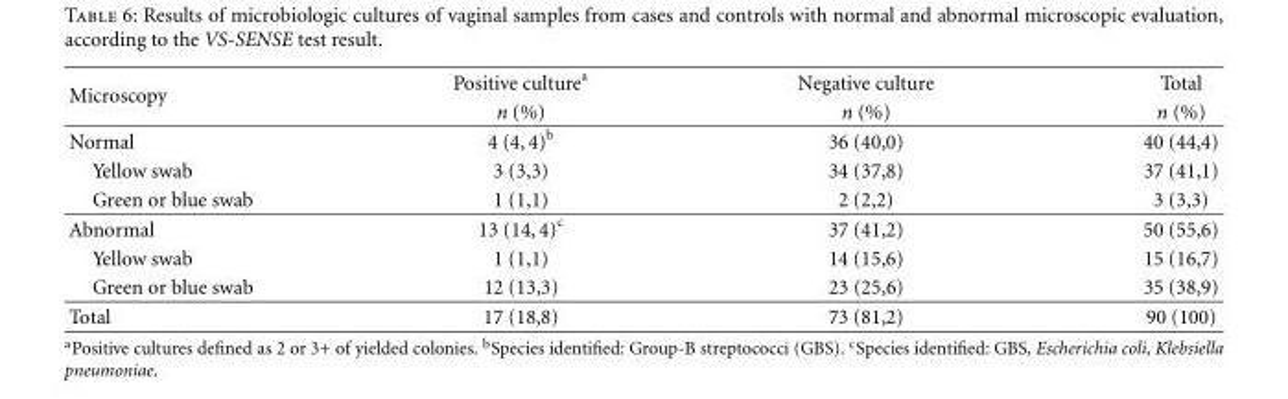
<table><thead><tr><td rowspan="2">Microscopy</td><td rowspan="2">Positive culture<sup>a</sup> n (%)</td><td rowspan="2">Negative culture n (%)</td><td rowspan="2">Total n (%)</td></tr><tr></tr></thead><tbody><tr><td>Normal</td><td>4 (4,4)<sup>b</sup></td><td>36 (40,0)</td><td>40 (44,4)</td></tr><tr><td>Yellow swab</td><td>3 (3,3)</td><td>34 (37,8)</td><td>37 (41,1)</td></tr><tr><td>Green or blue swab</td><td>1 (1,1)</td><td>2 (2,2)</td><td>3 (3,3)</td></tr><tr><td>Abnormal</td><td>13 (14,4)<sup>c</sup></td><td>37 (41,2)</td><td>50 (55,6)</td></tr><tr><td>Yellow swab</td><td>1 (1,1)</td><td>14 (15,6)</td><td>15 (16,7)</td></tr><tr><td>Green or blue swab</td><td>12 (13,3)</td><td>23 (25,6)</td><td>35 (38,9)</td></tr><tr><td>Total</td><td>17 (18,8)</td><td>73 (81,2)</td><td>90 (100)</td></tr></tbody></table>